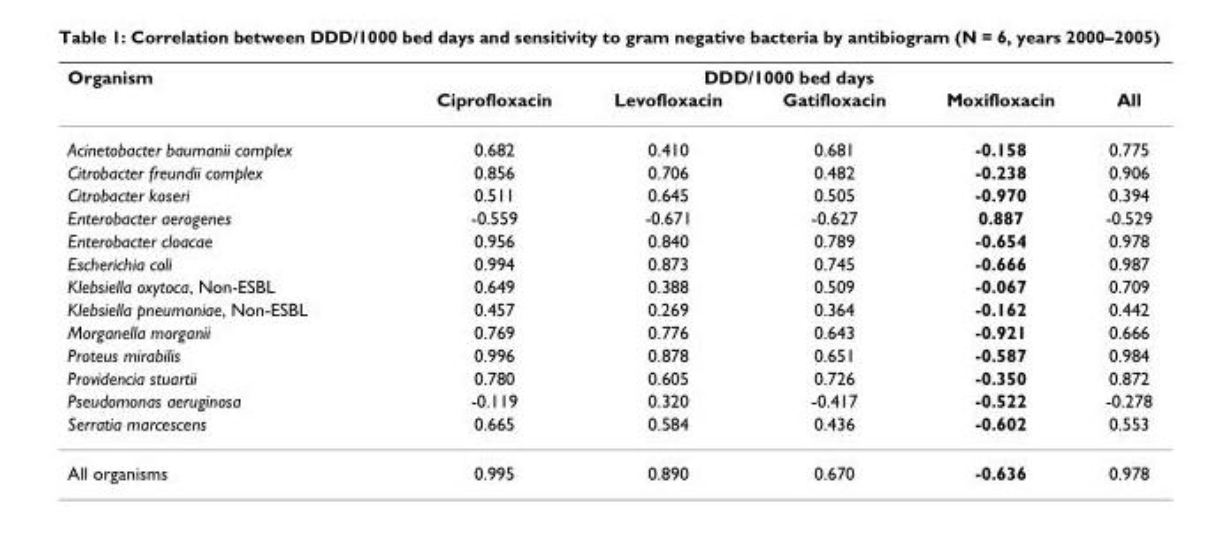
<table><thead><tr><td rowspan="2">Organism</td><td colspan="5">DDD/1000 bed days</td></tr><tr><td>Ciprofloxacin</td><td>Levofloxacin</td><td>Gatifloxacin</td><td>Moxifloxacin</td><td>All</td></tr></thead><tbody><tr><td>Acinetobacter baumanii complex</td><td>0.682</td><td>0.410</td><td>0.681</td><td>-0.158</td><td>0.775</td></tr><tr><td>Citrobacter freundii complex</td><td>0.856</td><td>0.706</td><td>0.482</td><td>-0.238</td><td>0.906</td></tr><tr><td>Citrobacter koseri</td><td>0.511</td><td>0.645</td><td>0.505</td><td>-0.970</td><td>0.394</td></tr><tr><td>Enterobacter aerogenes</td><td>-0.559</td><td>-0.671</td><td>-0.627</td><td>0.887</td><td>-0.529</td></tr><tr><td>Enterobacter cloacae</td><td>0.956</td><td>0.840</td><td>0.789</td><td>-0.654</td><td>0.978</td></tr><tr><td>Escherichia coli</td><td>0.994</td><td>0.873</td><td>0.745</td><td>-0.666</td><td>0.987</td></tr><tr><td>Klebsiella oxytoca, Non-ESBL</td><td>0.649</td><td>0.388</td><td>0.509</td><td>-0.067</td><td>0.709</td></tr><tr><td>Klebsiella pneumoniae, Non-ESBL</td><td>0.457</td><td>0.269</td><td>0.364</td><td>-0.162</td><td>0.442</td></tr><tr><td>Morganella morganii</td><td>0.769</td><td>0.776</td><td>0.643</td><td>-0.921</td><td>0.666</td></tr><tr><td>Proteus mirabilis</td><td>0.996</td><td>0.878</td><td>0.651</td><td>-0.587</td><td>0.984</td></tr><tr><td>Providencia stuartii</td><td>0.780</td><td>0.605</td><td>0.726</td><td>-0.350</td><td>0.872</td></tr><tr><td>Pseudomonas aeruginosa</td><td>-0.119</td><td>0.320</td><td>-0.417</td><td>-0.522</td><td>-0.278</td></tr><tr><td>Serratia marcescens</td><td>0.665</td><td>0.584</td><td>0.436</td><td>-0.602</td><td>0.553</td></tr><tr><td>All organisms</td><td>0.995</td><td>0.890</td><td>0.670</td><td>-0.636</td><td>0.978</td></tr></tbody></table>